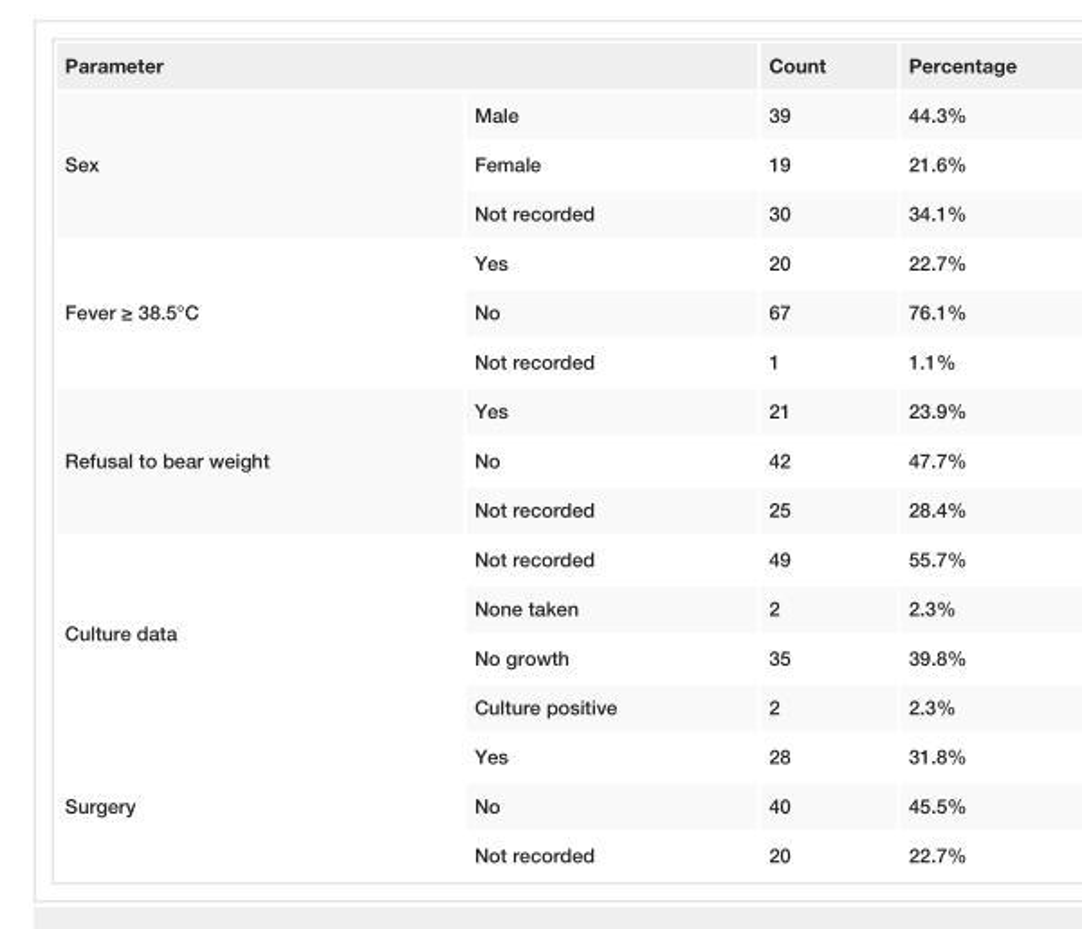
<table><tbody><tr><td colspan="2">Parameter</td><td>Count</td><td>Percentage</td></tr><tr><td rowspan="3">Sex</td><td>Male</td><td>39</td><td>44.3%</td></tr><tr><td>Female</td><td>19</td><td>21.6%</td></tr><tr><td>Not recorded</td><td>30</td><td>34.1%</td></tr><tr><td rowspan="3">Fever ≥ 38.5°C</td><td>Yes</td><td>20</td><td>22.7%</td></tr><tr><td>No</td><td>67</td><td>76.1%</td></tr><tr><td>Not recorded</td><td>1</td><td>1.1%</td></tr><tr><td rowspan="3">Refusal to bear weight</td><td>Yes</td><td>21</td><td>23.9%</td></tr><tr><td>No</td><td>42</td><td>47.7%</td></tr><tr><td>Not recorded</td><td>25</td><td>28.4%</td></tr><tr><td rowspan="4">Culture data</td><td>Not recorded</td><td>49</td><td>55.7%</td></tr><tr><td>None taken</td><td>2</td><td>2.3%</td></tr><tr><td>No growth</td><td>35</td><td>39.8%</td></tr><tr><td>Culture positive</td><td>2</td><td>2.3%</td></tr><tr><td rowspan="3">Surgery</td><td>Yes</td><td>28</td><td>31.8%</td></tr><tr><td>No</td><td>40</td><td>45.5%</td></tr><tr><td>Not recorded</td><td>20</td><td>22.7%</td></tr></tbody></table>